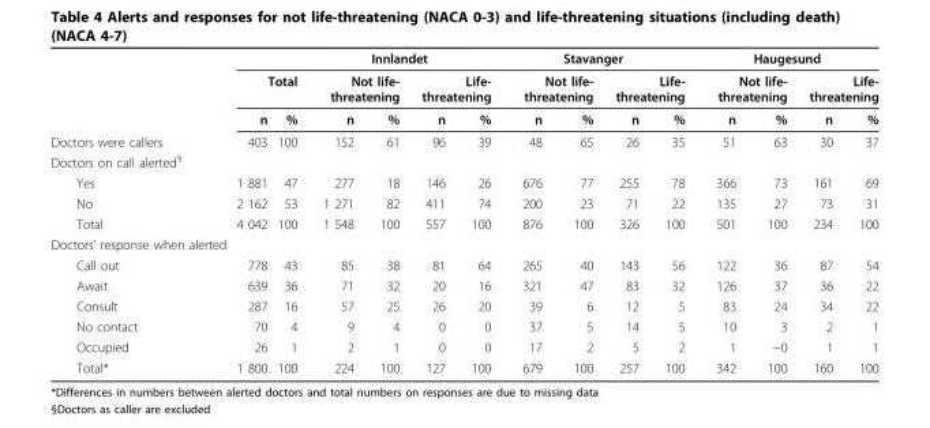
<table><thead><tr><td rowspan="3"></td><td></td><td></td><td colspan="4">Innlandet</td><td colspan="4">Stavanger</td><td colspan="4">Haugesund</td></tr><tr><td colspan="2">Total</td><td colspan="2">Not life- threatening</td><td colspan="2">Life- threatening</td><td colspan="2">Not life- threatening</td><td colspan="2">Life- threatening</td><td colspan="2">Not life- threatening</td><td colspan="2">Life- threatening</td></tr><tr><td>n</td><td>%</td><td>n</td><td>%</td><td>n</td><td>%</td><td>n</td><td>%</td><td>n</td><td>%</td><td>n</td><td>%</td><td>n</td><td>%</td></tr></thead><tbody><tr><td>Doctors were callers</td><td>403</td><td>100</td><td>152</td><td>61</td><td>96</td><td>39</td><td>48</td><td>65</td><td>26</td><td>35</td><td>51</td><td>63</td><td>30</td><td>37</td></tr><tr><td colspan="15">Doctors on call alerted<sup>§</sup></td></tr><tr><td>Yes</td><td>1 881</td><td>47</td><td>277</td><td>18</td><td>146</td><td>26</td><td>676</td><td>77</td><td>255</td><td>78</td><td>366</td><td>73</td><td>161</td><td>69</td></tr><tr><td>No</td><td>2 162</td><td>53</td><td>1 271</td><td>82</td><td>411</td><td>74</td><td>200</td><td>23</td><td>71</td><td>22</td><td>135</td><td>27</td><td>73</td><td>31</td></tr><tr><td>Total</td><td>4 042</td><td>100</td><td>1 548</td><td>100</td><td>557</td><td>100</td><td>876</td><td>100</td><td>326</td><td>100</td><td>501</td><td>100</td><td>234</td><td>100</td></tr><tr><td colspan="15">Doctors’ response when alerted</td></tr><tr><td>Call out</td><td>778</td><td>43</td><td>85</td><td>38</td><td>81</td><td>64</td><td>265</td><td>40</td><td>143</td><td>56</td><td>122</td><td>36</td><td>87</td><td>54</td></tr><tr><td>Await</td><td>639</td><td>36</td><td>71</td><td>32</td><td>20</td><td>16</td><td>321</td><td>47</td><td>83</td><td>32</td><td>126</td><td>37</td><td>36</td><td>22</td></tr><tr><td>Consult</td><td>287</td><td>16</td><td>57</td><td>25</td><td>26</td><td>20</td><td>39</td><td>6</td><td>12</td><td>5</td><td>83</td><td>24</td><td>34</td><td>22</td></tr><tr><td>No contact</td><td>70</td><td>4</td><td>9</td><td>4</td><td>0</td><td>0</td><td>37</td><td>5</td><td>14</td><td>5</td><td>10</td><td>3</td><td>2</td><td>1</td></tr><tr><td>Occupied</td><td>26</td><td>1</td><td>2</td><td>1</td><td>0</td><td>0</td><td>17</td><td>2</td><td>5</td><td>2</td><td>1</td><td>~0</td><td>1</td><td>1</td></tr><tr><td>Total*</td><td>1 800</td><td>100</td><td>224</td><td>100</td><td>127</td><td>100</td><td>679</td><td>100</td><td>257</td><td>100</td><td>342</td><td>100</td><td>160</td><td>100</td></tr></tbody></table>